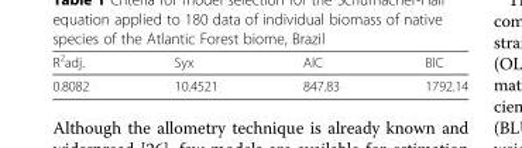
<table><thead><tr><td>R<sup>2</sup>adj.</td><td>Syx</td><td>AIC</td><td>BIC</td></tr></thead><tbody><tr><td>0.8082</td><td>10.4521</td><td>847.83</td><td>1792.14</td></tr></tbody></table>